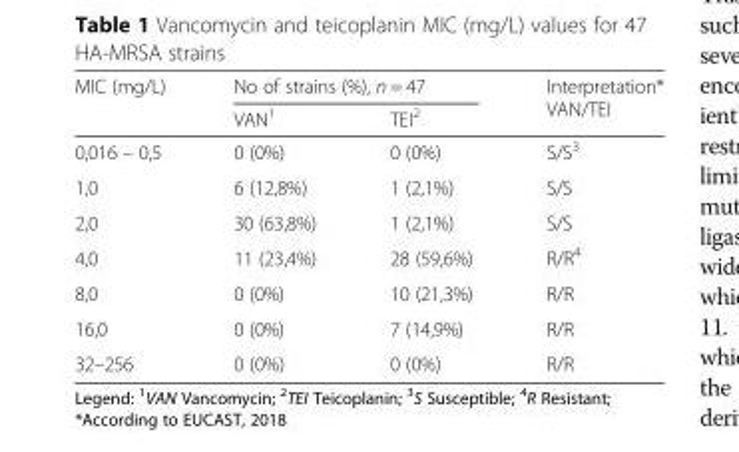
<table><thead><tr><td rowspan="2">MIC (mg/L)</td><td colspan="2">No of strains (%), n = 47</td><td rowspan="2">Interpretation* VAN/TEI</td></tr><tr><td>VAN<sup>1</sup></td><td>TEI<sup>2</sup></td></tr></thead><tbody><tr><td>0,016 – 0,5</td><td>0 (0%)</td><td>0 (0%)</td><td>S/S<sup>3</sup></td></tr><tr><td>1,0</td><td>6 (12,8%)</td><td>1 (2,1%)</td><td>S/S</td></tr><tr><td>2,0</td><td>30 (63,8%)</td><td>1 (2,1%)</td><td>S/S</td></tr><tr><td>4,0</td><td>11 (23,4%)</td><td>28 (59,6%)</td><td>R/R<sup>4</sup></td></tr><tr><td>8,0</td><td>0 (0%)</td><td>10 (21,3%)</td><td>R/R</td></tr><tr><td>16,0</td><td>0 (0%)</td><td>7 (14,9%)</td><td>R/R</td></tr><tr><td>32–256</td><td>0 (0%)</td><td>0 (0%)</td><td>R/R</td></tr></tbody></table>